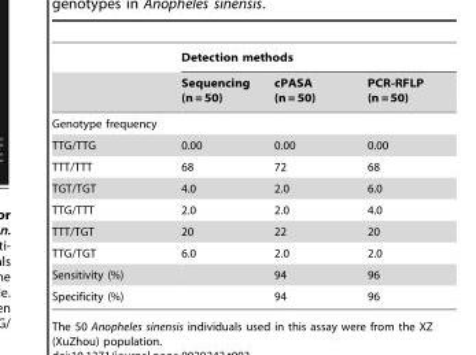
<table><thead><tr><td rowspan="2"></td><td colspan="3">Detection methods</td></tr><tr><td>Sequencing (n = 50)</td><td>cPASA (n = 50)</td><td>PCR-RFLP (n = 50)</td></tr></thead><tbody><tr><td colspan="4">Genotype frequency</td></tr><tr><td>TTG/TTG</td><td>0.00</td><td>0.00</td><td>0.00</td></tr><tr><td>TTT/TTT</td><td>68</td><td>72</td><td>68</td></tr><tr><td>TGT/TGT</td><td>4.0</td><td>2.0</td><td>6.0</td></tr><tr><td>TTG/TTT</td><td>2.0</td><td>2.0</td><td>4.0</td></tr><tr><td>TTT/TGT</td><td>20</td><td>22</td><td>20</td></tr><tr><td>TTG/TGT</td><td>6.0</td><td>2.0</td><td>2.0</td></tr><tr><td>Sensitivity (%)</td><td></td><td>94</td><td>96</td></tr><tr><td>Specificity (%)</td><td></td><td>94</td><td>96</td></tr></tbody></table>